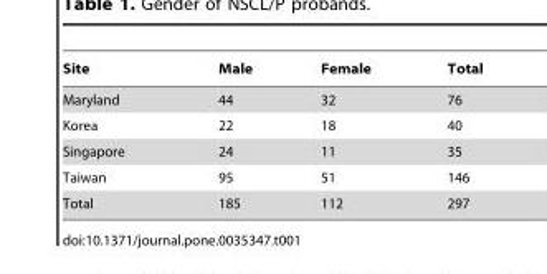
<table><thead><tr><td>Site</td><td>Male</td><td>Female</td><td>Total</td></tr></thead><tbody><tr><td>Maryland</td><td>44</td><td>32</td><td>76</td></tr><tr><td>Korea</td><td>22</td><td>18</td><td>40</td></tr><tr><td>Singapore</td><td>24</td><td>11</td><td>35</td></tr><tr><td>Taiwan</td><td>95</td><td>51</td><td>146</td></tr><tr><td>Total</td><td>185</td><td>112</td><td>297</td></tr></tbody></table>